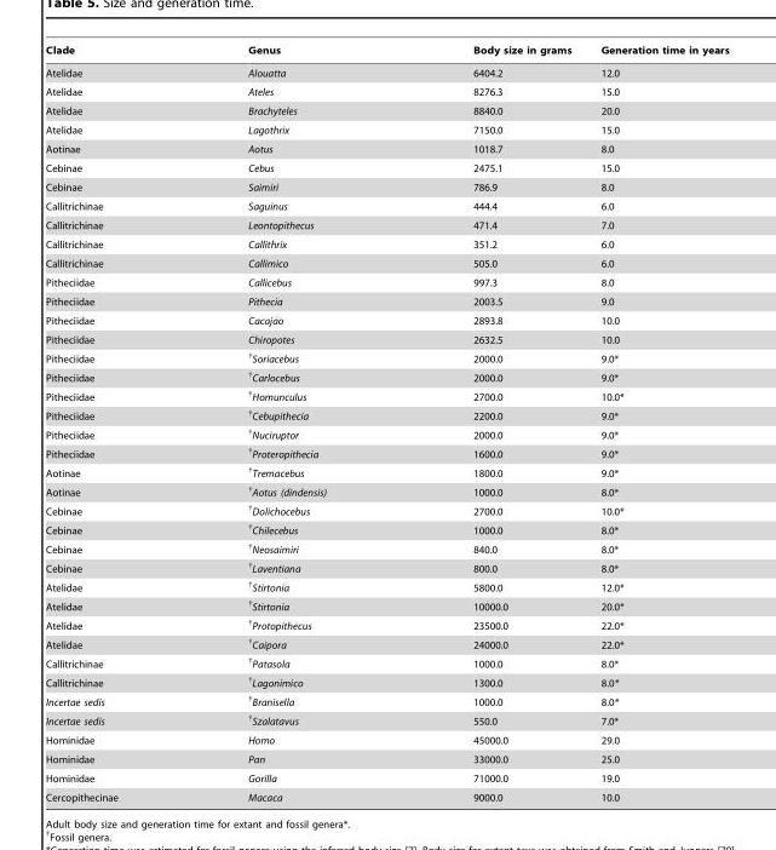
<table><thead><tr><td>Clade</td><td>Genus</td><td>Body size in grams</td><td>Generation time in years</td></tr></thead><tbody><tr><td>Atelidae</td><td>Alouatta</td><td>6404.2</td><td>12.0</td></tr><tr><td>Atelidae</td><td>Ateles</td><td>8276.3</td><td>15.0</td></tr><tr><td>Atelidae</td><td>Brachyteles</td><td>8840.0</td><td>20.0</td></tr><tr><td>Atelidae</td><td>Lagothrix</td><td>7150.0</td><td>15.0</td></tr><tr><td>Aotinae</td><td>Aotus</td><td>1018.7</td><td>8.0</td></tr><tr><td>Cebinae</td><td>Cebus</td><td>2475.1</td><td>15.0</td></tr><tr><td>Cebinae</td><td>Saimiri</td><td>786.9</td><td>8.0</td></tr><tr><td>Callitrichinae</td><td>Saguinus</td><td>444.4</td><td>6.0</td></tr><tr><td>Callitrichinae</td><td>Leontopithecus</td><td>471.4</td><td>7.0</td></tr><tr><td>Callitrichinae</td><td>Callithrix</td><td>351.2</td><td>6.0</td></tr><tr><td>Callitrichinae</td><td>Callimico</td><td>505.0</td><td>6.0</td></tr><tr><td>Pitheciidae</td><td>Callicebus</td><td>997.3</td><td>8.0</td></tr><tr><td>Pitheciidae</td><td>Pithecia</td><td>2003.5</td><td>9.0</td></tr><tr><td>Pitheciidae</td><td>Cacajao</td><td>2893.8</td><td>10.0</td></tr><tr><td>Pitheciidae</td><td>Chiropotes</td><td>2632.5</td><td>10.0</td></tr><tr><td>Pitheciidae</td><td>†Soriacebus</td><td>2000.0</td><td>9.0*</td></tr><tr><td>Pitheciidae</td><td>†Carlocebus</td><td>2000.0</td><td>9.0*</td></tr><tr><td>Pitheciidae</td><td>†Homunculus</td><td>2700.0</td><td>10.0*</td></tr><tr><td>Pitheciidae</td><td>†Cebupithecia</td><td>2200.0</td><td>9.0*</td></tr><tr><td>Pitheciidae</td><td>†Nuciruptor</td><td>2000.0</td><td>9.0*</td></tr><tr><td>Pitheciidae</td><td>†Proteropithecia</td><td>1600.0</td><td>9.0*</td></tr><tr><td>Aotinae</td><td>†Tremacebus</td><td>1800.0</td><td>9.0*</td></tr><tr><td>Aotinae</td><td>†Aotus (dindensis)</td><td>1000.0</td><td>8.0*</td></tr><tr><td>Cebinae</td><td>†Dolichocebus</td><td>2700.0</td><td>10.0*</td></tr><tr><td>Cebinae</td><td>†Chilecebus</td><td>1000.0</td><td>8.0*</td></tr><tr><td>Cebinae</td><td>†Neosaimiri</td><td>840.0</td><td>8.0*</td></tr><tr><td>Cebinae</td><td>†Laventiana</td><td>800.0</td><td>8.0*</td></tr><tr><td>Atelidae</td><td>†Stirtonia</td><td>5800.0</td><td>12.0*</td></tr><tr><td>Atelidae</td><td>†Stirtonia</td><td>10000.0</td><td>20.0*</td></tr><tr><td>Atelidae</td><td>†Protopithecus</td><td>23500.0</td><td>22.0*</td></tr><tr><td>Atelidae</td><td>†Caipora</td><td>24000.0</td><td>22.0*</td></tr><tr><td>Callitrichinae</td><td>†Patasola</td><td>1000.0</td><td>8.0*</td></tr><tr><td>Callitrichinae</td><td>†Lagonimico</td><td>1300.0</td><td>8.0*</td></tr><tr><td>Incertae sedis</td><td>†Branisella</td><td>1000.0</td><td>8.0*</td></tr><tr><td>Incertae sedis</td><td>†Szalatavus</td><td>550.0</td><td>7.0*</td></tr><tr><td>Hominidae</td><td>Homo</td><td>45000.0</td><td>29.0</td></tr><tr><td>Hominidae</td><td>Pan</td><td>33000.0</td><td>25.0</td></tr><tr><td>Hominidae</td><td>Gorilla</td><td>71000.0</td><td>19.0</td></tr><tr><td>Cercopithecinae</td><td>Macaca</td><td>9000.0</td><td>10.0</td></tr></tbody></table>